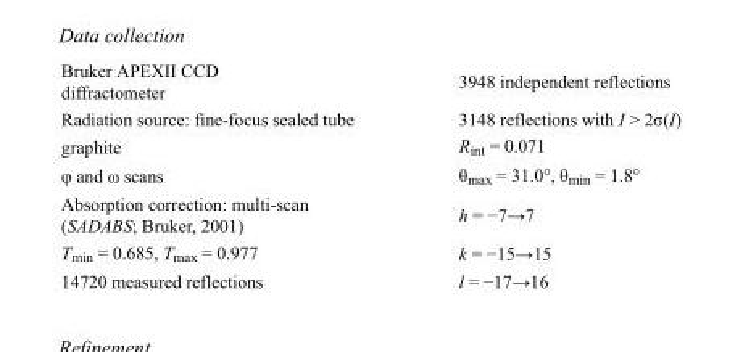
<table><tbody><tr><td>Bruker APEXII CCD diffractometer</td><td>3948 independent reflections</td></tr><tr><td>Radiation source: fine-focus sealed tube</td><td>3148 reflections with I &gt; 2σ(I)</td></tr><tr><td>graphite</td><td>R<sub>int</sub> = 0.071</td></tr><tr><td>φ and ω scans</td><td>θ<sub>max</sub> = 31.0°, θ<sub>min</sub> = 1.8°</td></tr><tr><td>Absorption correction: multi-scan (SADABS; Bruker, 2001)</td><td>h = −7→7</td></tr><tr><td>T<sub>min</sub> = 0.685, T<sub>max</sub> = 0.977</td><td>k = −15→15</td></tr><tr><td>14720 measured reflections</td><td>l = −17→16</td></tr></tbody></table>